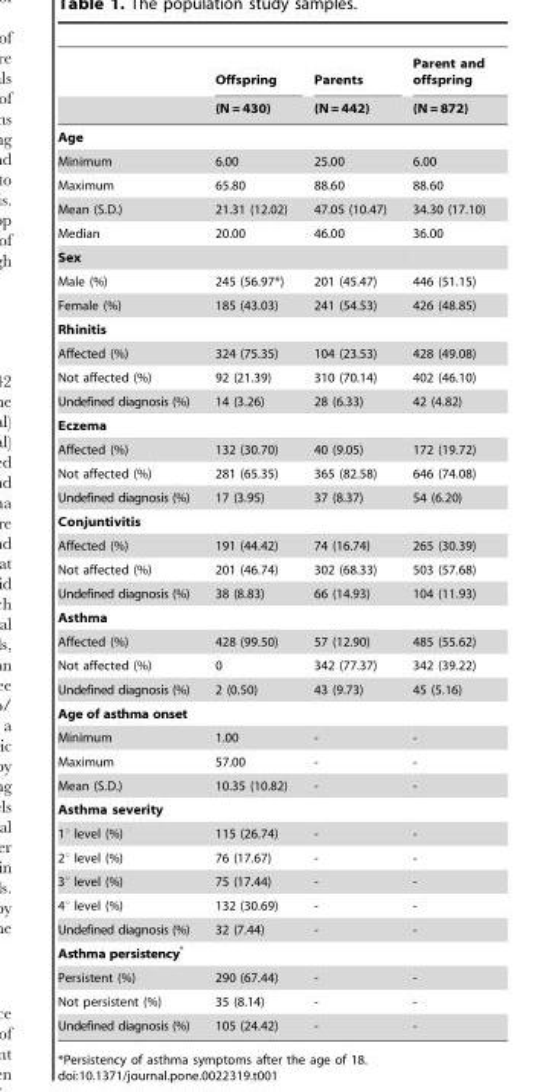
<table><thead><tr><td rowspan="2"></td><td rowspan="2">Offspring (N = 430)</td><td rowspan="2">Parents (N = 442)</td><td rowspan="2">Parent and offspring (N = 872)</td></tr><tr></tr></thead><tbody><tr><td colspan="4">Age</td></tr><tr><td>Minimum</td><td>6.00</td><td>25.00</td><td>6.00</td></tr><tr><td>Maximum</td><td>65.80</td><td>88.60</td><td>88.60</td></tr><tr><td>Mean (S.D.)</td><td>21.31 (12.02)</td><td>47.05 (10.47)</td><td>34.30 (17.10)</td></tr><tr><td>Median</td><td>20.00</td><td>46.00</td><td>36.00</td></tr><tr><td colspan="4">Sex</td></tr><tr><td>Male (%)</td><td>245 (56.97*)</td><td>201 (45.47)</td><td>446 (51.15)</td></tr><tr><td>Female (%)</td><td>185 (43.03)</td><td>241 (54.53)</td><td>426 (48.85)</td></tr><tr><td colspan="4">Rhinitis</td></tr><tr><td>Affected (%)</td><td>324 (75.35)</td><td>104 (23.53)</td><td>428 (49.08)</td></tr><tr><td>Not affected (%)</td><td>92 (21.39)</td><td>310 (70.14)</td><td>402 (46.10)</td></tr><tr><td>Undefined diagnosis (%)</td><td>14 (3.26)</td><td>28 (6.33)</td><td>42 (4.82)</td></tr><tr><td colspan="4">Eczema</td></tr><tr><td>Affected (%)</td><td>132 (30.70)</td><td>40 (9.05)</td><td>172 (19.72)</td></tr><tr><td>Not affected (%)</td><td>281 (65.35)</td><td>365 (82.58)</td><td>646 (74.08)</td></tr><tr><td>Undefined diagnosis (%)</td><td>17 (3.95)</td><td>37 (8.37)</td><td>54 (6.20)</td></tr><tr><td colspan="4">Conjuntivitis</td></tr><tr><td>Affected (%)</td><td>191 (44.42)</td><td>74 (16.74)</td><td>265 (30.39)</td></tr><tr><td>Not affected (%)</td><td>201 (46.74)</td><td>302 (68.33)</td><td>503 (57.68)</td></tr><tr><td>Undefined diagnosis (%)</td><td>38 (8.83)</td><td>66 (14.93)</td><td>104 (11.93)</td></tr><tr><td colspan="4">Asthma</td></tr><tr><td>Affected (%)</td><td>428 (99.50)</td><td>57 (12.90)</td><td>485 (55.62)</td></tr><tr><td>Not affected (%)</td><td>0</td><td>342 (77.37)</td><td>342 (39.22)</td></tr><tr><td>Undefined diagnosis (%)</td><td>2 (0.50)</td><td>43 (9.73)</td><td>45 (5.16)</td></tr><tr><td colspan="4">Age of asthma onset</td></tr><tr><td>Minimum</td><td>1.00</td><td>-</td><td>-</td></tr><tr><td>Maximum</td><td>57.00</td><td>-</td><td>-</td></tr><tr><td>Mean (S.D.)</td><td>10.35 (10.82)</td><td>-</td><td>-</td></tr><tr><td colspan="4">Asthma severity</td></tr><tr><td>1° level (%)</td><td>115 (26.74)</td><td>-</td><td>-</td></tr><tr><td>2° level (%)</td><td>76 (17.67)</td><td>-</td><td>-</td></tr><tr><td>3° level (%)</td><td>75 (17.44)</td><td>-</td><td>-</td></tr><tr><td>4° level (%)</td><td>132 (30.69)</td><td>-</td><td>-</td></tr><tr><td>Undefined diagnosis (%)</td><td>32 (7.44)</td><td>-</td><td>-</td></tr><tr><td colspan="4">Asthma persistency*</td></tr><tr><td>Persistent (%)</td><td>290 (67.44)</td><td>-</td><td>-</td></tr><tr><td>Not persistent (%)</td><td>35 (8.14)</td><td>-</td><td>-</td></tr><tr><td>Undefined diagnosis (%)</td><td>105 (24.42)</td><td>-</td><td>-</td></tr></tbody></table>